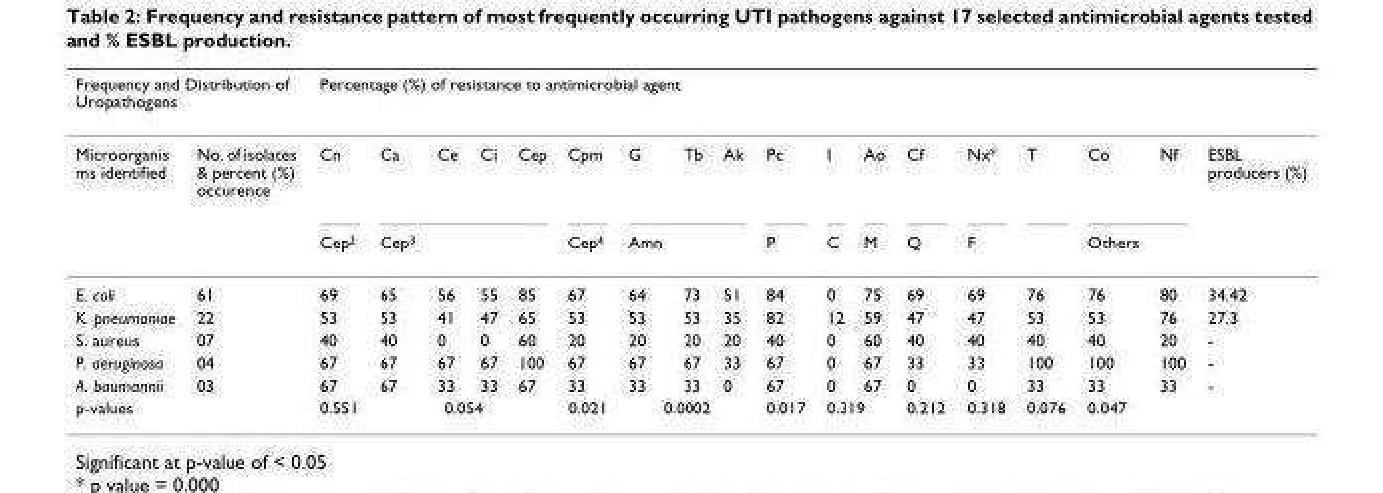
<table><thead><tr><td colspan="2">Frequency and Distribution of Uropathogens</td><td colspan="18">Percentage (%) of resistance to antimicrobial agent</td></tr><tr><td>Microorganis ms identified</td><td>No. of isolates &amp; percent (%) occurence</td><td>Cn</td><td>Ca</td><td>Ce</td><td>Ci</td><td>Cep</td><td>Cpm</td><td>G</td><td>Tb</td><td>Ak</td><td>Pc</td><td>I</td><td>Ao</td><td>Cf</td><td>Nx*</td><td>T</td><td>Co</td><td>Nf</td><td>ESBL producers (%)</td></tr></thead><tbody><tr><td></td><td></td><td>Cep<sup>2</sup></td><td>Cep<sup>3</sup></td><td></td><td></td><td></td><td>Cep<sup>4</sup></td><td>Amn</td><td></td><td></td><td>P</td><td>C</td><td>M</td><td>Q</td><td>F</td><td></td><td>Others</td><td></td><td></td></tr><tr><td>E. coli</td><td>61</td><td>69</td><td>65</td><td>56</td><td>55</td><td>85</td><td>67</td><td>64</td><td>73</td><td>51</td><td>84</td><td>0</td><td>75</td><td>69</td><td>69</td><td>76</td><td>76</td><td>80</td><td>34.42</td></tr><tr><td>K. pneumoniae</td><td>22</td><td>53</td><td>53</td><td>41</td><td>47</td><td>65</td><td>53</td><td>53</td><td>53</td><td>35</td><td>82</td><td>12</td><td>59</td><td>47</td><td>47</td><td>53</td><td>53</td><td>76</td><td>27.3</td></tr><tr><td>S. aureus</td><td>07</td><td>40</td><td>40</td><td>0</td><td>0</td><td>60</td><td>20</td><td>20</td><td>20</td><td>20</td><td>40</td><td>0</td><td>60</td><td>40</td><td>40</td><td>40</td><td>40</td><td>20</td><td>-</td></tr><tr><td>P. aeruginosa</td><td>04</td><td>67</td><td>67</td><td>67</td><td>67</td><td>100</td><td>67</td><td>67</td><td>67</td><td>33</td><td>67</td><td>0</td><td>67</td><td>33</td><td>33</td><td>100</td><td>100</td><td>100</td><td>-</td></tr><tr><td>A. baumannii</td><td>03</td><td>67</td><td>67</td><td>33</td><td>33</td><td>67</td><td>33</td><td>33</td><td>33</td><td>0</td><td>67</td><td>0</td><td>67</td><td>0</td><td>0</td><td>33</td><td>33</td><td>33</td><td>-</td></tr><tr><td>p-values</td><td></td><td>0.551</td><td colspan="4">0.054</td><td>0.021</td><td colspan="3">0.0002</td><td>0.017</td><td colspan="2">0.319</td><td>0.212</td><td>0.318</td><td>0.076</td><td colspan="2">0.047</td><td></td></tr></tbody></table>